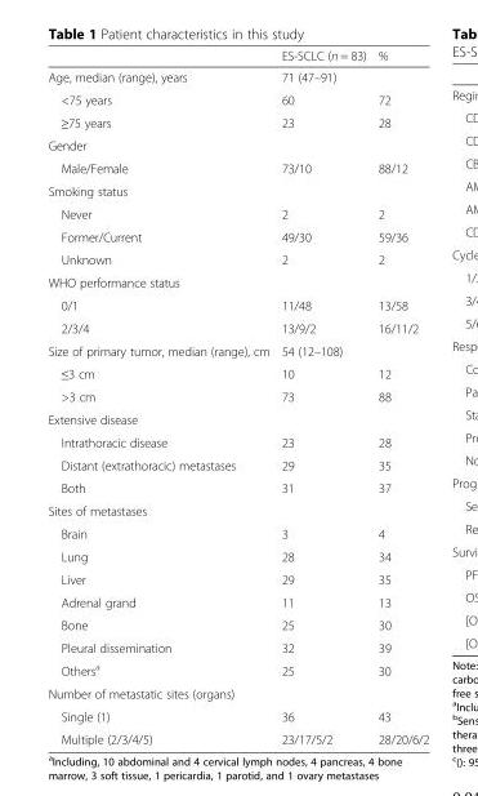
<table><thead><tr><td></td><td>ES-SCLC (n = 83)</td><td>%</td></tr></thead><tbody><tr><td>Age, median (range), years</td><td>71 (47–91)</td><td></td></tr><tr><td>&lt;75 years</td><td>60</td><td>72</td></tr><tr><td>≥75 years</td><td>23</td><td>28</td></tr><tr><td colspan="3">Gender</td></tr><tr><td>Male/Female</td><td>73/10</td><td>88/12</td></tr><tr><td colspan="3">Smoking status</td></tr><tr><td>Never</td><td>2</td><td>2</td></tr><tr><td>Former/Current</td><td>49/30</td><td>59/36</td></tr><tr><td>Unknown</td><td>2</td><td>2</td></tr><tr><td colspan="3">WHO performance status</td></tr><tr><td>0/1</td><td>11/48</td><td>13/58</td></tr><tr><td>2/3/4</td><td>13/9/2</td><td>16/11/2</td></tr><tr><td>Size of primary tumor, median (range), cm</td><td>54 (12–108)</td><td></td></tr><tr><td>≤3 cm</td><td>10</td><td>12</td></tr><tr><td>&gt;3 cm</td><td>73</td><td>88</td></tr><tr><td colspan="3">Extensive disease</td></tr><tr><td>Intrathoracic disease</td><td>23</td><td>28</td></tr><tr><td>Distant (extrathoracic) metastases</td><td>29</td><td>35</td></tr><tr><td>Both</td><td>31</td><td>37</td></tr><tr><td colspan="3">Sites of metastases</td></tr><tr><td>Brain</td><td>3</td><td>4</td></tr><tr><td>Lung</td><td>28</td><td>34</td></tr><tr><td>Liver</td><td>29</td><td>35</td></tr><tr><td>Adrenal grand</td><td>11</td><td>13</td></tr><tr><td>Bone</td><td>25</td><td>30</td></tr><tr><td>Pleural dissemination</td><td>32</td><td>39</td></tr><tr><td>Others<sup>a</sup></td><td>25</td><td>30</td></tr><tr><td colspan="3">Number of metastatic sites (organs)</td></tr><tr><td>Single (1)</td><td>36</td><td>43</td></tr><tr><td>Multiple (2/3/4/5)</td><td>23/17/5/2</td><td>28/20/6/2</td></tr></tbody></table>